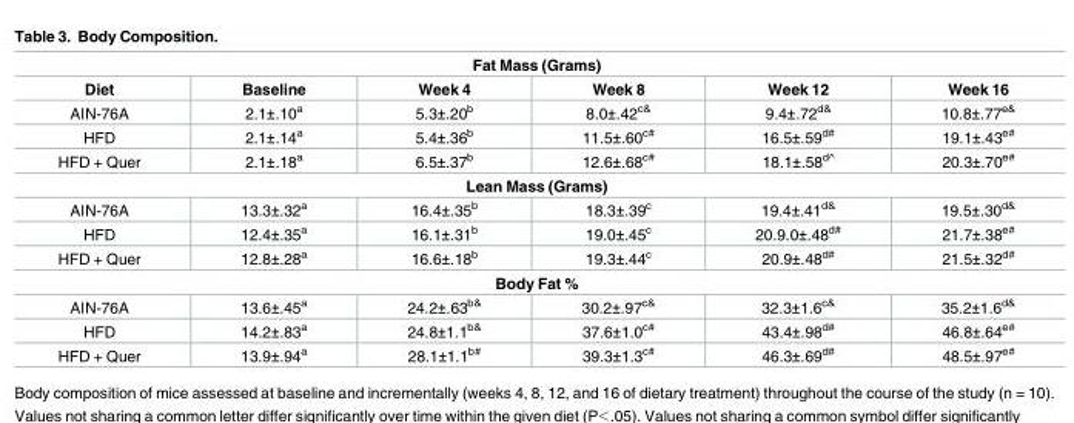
<table><tbody><tr><td colspan="6">Fat Mass (Grams)</td></tr><tr><td>Diet</td><td>Baseline</td><td>Week 4</td><td>Week 8</td><td>Week 12</td><td>Week 16</td></tr><tr><td>AIN-76A</td><td>2.1±.10<sup>a</sup></td><td>5.3±.20<sup>b</sup></td><td>8.0±.42<sup>c&amp;</sup></td><td>9.4±.72<sup>d&amp;</sup></td><td>10.8±.77<sup>e&amp;</sup></td></tr><tr><td>HFD</td><td>2.1±.14<sup>a</sup></td><td>5.4±.36<sup>b</sup></td><td>11.5±.60<sup>c#</sup></td><td>16.5±.59<sup>d#</sup></td><td>19.1±.43<sup>e#</sup></td></tr><tr><td>HFD + Quer</td><td>2.1±.18<sup>a</sup></td><td>6.5±.37<sup>b</sup></td><td>12.6±.68<sup>c#</sup></td><td>18.1±.58d^</td><td>20.3±.70<sup>e#</sup></td></tr><tr><td colspan="6">Lean Mass (Grams)</td></tr><tr><td>AIN-76A</td><td>13.3±.32<sup>a</sup></td><td>16.4±.35<sup>b</sup></td><td>18.3±.39<sup>c</sup></td><td>19.4±.41<sup>d&amp;</sup></td><td>19.5±.30<sup>d&amp;</sup></td></tr><tr><td>HFD</td><td>12.4±.35<sup>a</sup></td><td>16.1±.31<sup>b</sup></td><td>19.0±.45<sup>c</sup></td><td>20.9.0±.48<sup>d#</sup></td><td>21.7±.38<sup>e#</sup></td></tr><tr><td>HFD + Quer</td><td>12.8±.28<sup>a</sup></td><td>16.6±.18<sup>b</sup></td><td>19.3±.44<sup>c</sup></td><td>20.9±.48<sup>d#</sup></td><td>21.5±.32<sup>d#</sup></td></tr><tr><td colspan="6">Body Fat %</td></tr><tr><td>AIN-76A</td><td>13.6±.45<sup>a</sup></td><td>24.2±.63<sup>b&amp;</sup></td><td>30.2±.97<sup>c&amp;</sup></td><td>32.3±1.6<sup>c&amp;</sup></td><td>35.2±1.6<sup>d&amp;</sup></td></tr><tr><td>HFD</td><td>14.2±.83<sup>a</sup></td><td>24.8±1.1<sup>b&amp;</sup></td><td>37.6±1.0<sup>c#</sup></td><td>43.4±.98<sup>d#</sup></td><td>46.8±.64<sup>e#</sup></td></tr><tr><td>HFD + Quer</td><td>13.9±.94<sup>a</sup></td><td>28.1±1.1<sup>b#</sup></td><td>39.3±1.3<sup>c#</sup></td><td>46.3±.69<sup>d#</sup></td><td>48.5±.97<sup>e#</sup></td></tr></tbody></table>